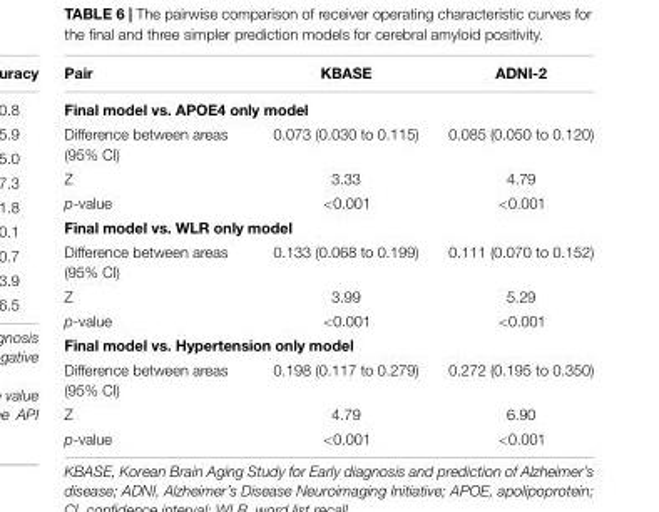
<table><thead><tr><td>Pair</td><td>KBASE</td><td>ADNI-2</td></tr></thead><tbody><tr><td colspan="3">Final model vs. APOE4 only model</td></tr><tr><td>Difference between areas (95% CI)</td><td>0.073 (0.030 to 0.115)</td><td>0.085 (0.050 to 0.120)</td></tr><tr><td>Z</td><td>3.33</td><td>4.79</td></tr><tr><td>p-value</td><td>&lt;0.001</td><td>&lt;0.001</td></tr><tr><td colspan="3">Final model vs. WLR only model</td></tr><tr><td>Difference between areas (95% CI)</td><td>0.133 (0.068 to 0.199)</td><td>0.111 (0.070 to 0.152)</td></tr><tr><td>Z</td><td>3.99</td><td>5.29</td></tr><tr><td>p-value</td><td>&lt;0.001</td><td>&lt;0.001</td></tr><tr><td colspan="3">Final model vs. Hypertension only model</td></tr><tr><td>Difference between areas (95% CI)</td><td>0.198 (0.117 to 0.279)</td><td>0.272 (0.195 to 0.350)</td></tr><tr><td>Z</td><td>4.79</td><td>6.90</td></tr><tr><td>p-value</td><td>&lt;0.001</td><td>&lt;0.001</td></tr></tbody></table>